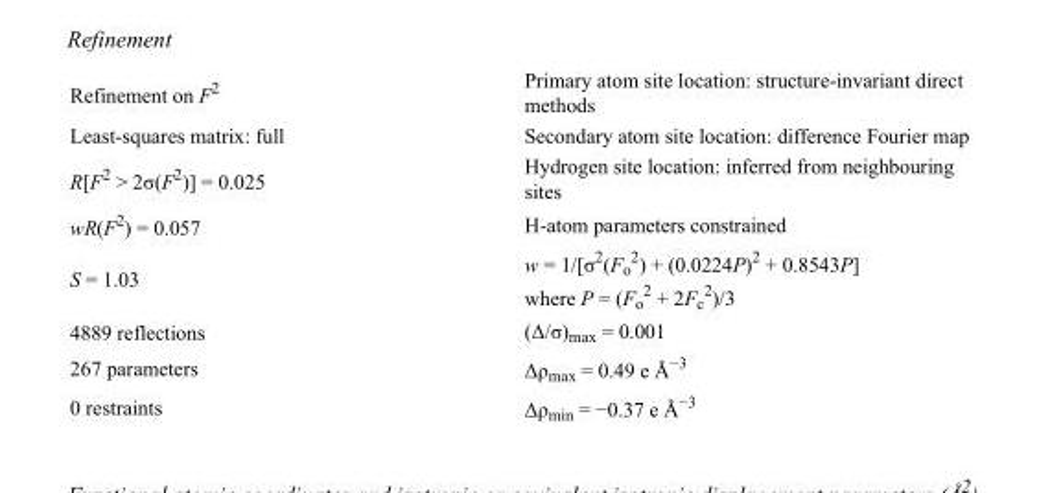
<table><tbody><tr><td>Refinement on F<sup>2</sup></td><td>Primary atom site location: structure-invariant direct methods</td></tr><tr><td>Least-squares matrix: full</td><td>Secondary atom site location: difference Fourier map</td></tr><tr><td>R[F<sup>2</sup> &gt; 2σ(F<sup>2</sup>)] = 0.025</td><td>Hydrogen site location: inferred from neighbouring sites</td></tr><tr><td>wR(F<sup>2</sup>) = 0.057</td><td>H-atom parameters constrained</td></tr><tr><td>S = 1.03</td><td>w = 1/[σ<sup>2</sup>(F<sub>o</sub> <sup>2</sup>) + (0.0224P)<sup>2</sup> + 0.8543P] where P = (F<sub>o</sub> <sup>2</sup> + 2F<sub>c</sub> <sup>2</sup>)/3</td></tr><tr><td>4889 reflections</td><td>(Δ/σ)<sub>max</sub> = 0.001</td></tr><tr><td>267 parameters</td><td>Δρ<sub>max</sub> = 0.49 e Å<sup>−3</sup></td></tr><tr><td>0 restraints</td><td>Δρ<sub>min</sub> = −0.37 e Å<sup>−3</sup></td></tr></tbody></table>